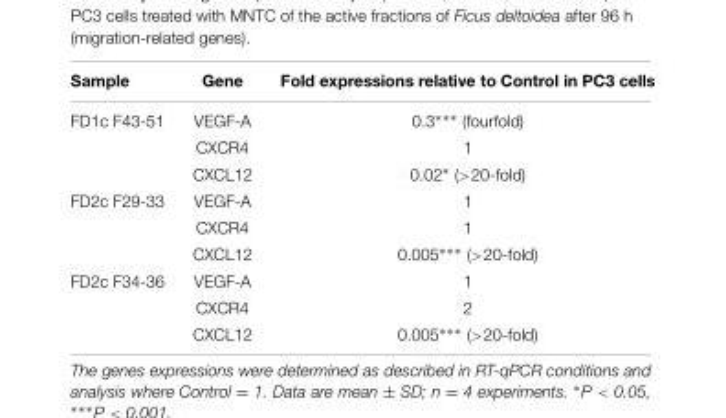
<table><thead><tr><td>Sample</td><td>Gene</td><td>Fold expressions relative to Control in PC3 cells</td></tr></thead><tbody><tr><td rowspan="3">FD1c F43-51</td><td>VEGF-A</td><td>0.3∗∗∗ (fourfold)</td></tr><tr><td>CXCR4</td><td>1</td></tr><tr><td>CXCL12</td><td>0.02∗ (&gt;20-fold)</td></tr><tr><td rowspan="3">FD2c F29-33</td><td>VEGF-A</td><td>1</td></tr><tr><td>CXCR4</td><td>1</td></tr><tr><td>CXCL12</td><td>0.005∗∗∗ (&gt;20-fold)</td></tr><tr><td rowspan="3">FD2c F34-36</td><td>VEGF-A</td><td>1</td></tr><tr><td>CXCR4</td><td>2</td></tr><tr><td>CXCL12</td><td>0.005∗∗∗ (&gt;20-fold)</td></tr></tbody></table>